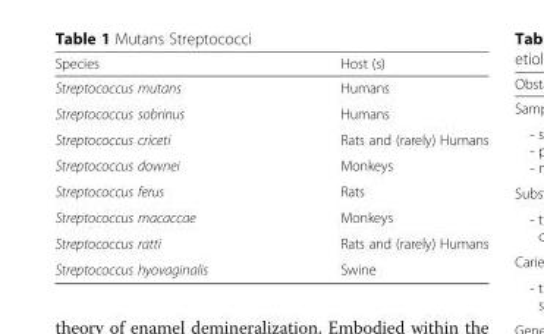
<table><thead><tr><td>Species</td><td>Host (s)</td></tr></thead><tbody><tr><td>Streptococcus mutans</td><td>Humans</td></tr><tr><td>Streptococcus sobrinus</td><td>Humans</td></tr><tr><td>Streptococcus criceti</td><td>Rats and (rarely) Humans</td></tr><tr><td>Streptococcus downei</td><td>Monkeys</td></tr><tr><td>Streptococcus ferus</td><td>Rats</td></tr><tr><td>Streptococcus macaccae</td><td>Monkeys</td></tr><tr><td>Streptococcus ratti</td><td>Rats and (rarely) Humans</td></tr><tr><td>Streptococcus hyovaginalis</td><td>Swine</td></tr></tbody></table>